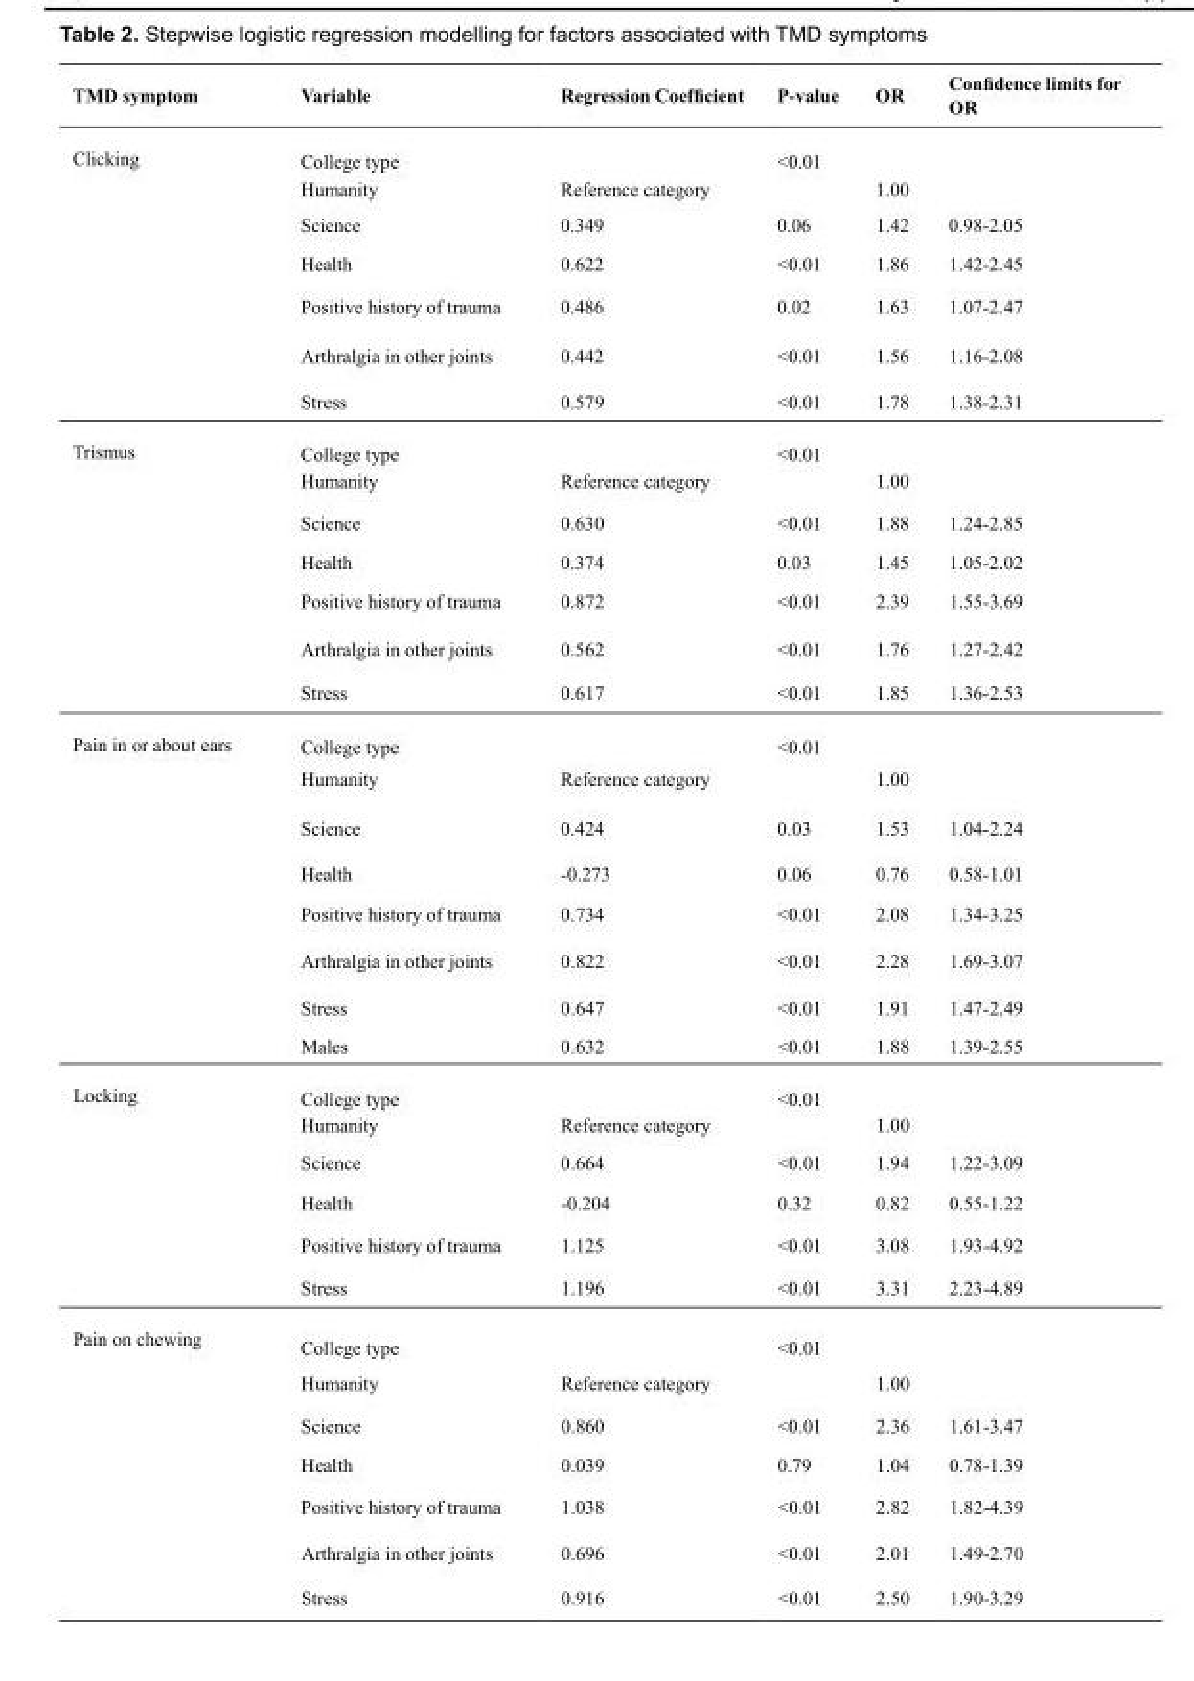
<table><thead><tr><td>TMD symptom</td><td>Variable</td><td>Regression Coefficient</td><td>P-value</td><td>OR</td><td>Confidence limits for OR</td></tr></thead><tbody><tr><td rowspan="7">Clicking</td><td>College type</td><td></td><td>&lt;0.01</td><td></td><td></td></tr><tr><td>Humanity</td><td colspan="2">Reference category</td><td>1.00</td><td></td></tr><tr><td>Science</td><td>0.349</td><td>0.06</td><td>1.42</td><td>0.98-2.05</td></tr><tr><td>Health</td><td>0.622</td><td>&lt;0.01</td><td>1.86</td><td>1.42-2.45</td></tr><tr><td>Positive history of trauma</td><td>0.486</td><td>0.02</td><td>1.63</td><td>1.07-2.47</td></tr><tr><td>Arthralgia in other joints</td><td>0.442</td><td>&lt;0.01</td><td>1.56</td><td>1.16-2.08</td></tr><tr><td>Stress</td><td>0.579</td><td>&lt;0.01</td><td>1.78</td><td>1.38-2.31</td></tr><tr><td rowspan="7">Trismus</td><td>College type</td><td></td><td>&lt;0.01</td><td></td><td></td></tr><tr><td>Humanity</td><td colspan="2">Reference category</td><td>1.00</td><td></td></tr><tr><td>Science</td><td>0.630</td><td>&lt;0.01</td><td>1.88</td><td>1.24-2.85</td></tr><tr><td>Health</td><td>0.374</td><td>0.03</td><td>1.45</td><td>1.05-2.02</td></tr><tr><td>Positive history of trauma</td><td>0.872</td><td>&lt;0.01</td><td>2.39</td><td>1.55-3.69</td></tr><tr><td>Arthralgia in other joints</td><td>0.562</td><td>&lt;0.01</td><td>1.76</td><td>1.27-2.42</td></tr><tr><td>Stress</td><td>0.617</td><td>&lt;0.01</td><td>1.85</td><td>1.36-2.53</td></tr><tr><td rowspan="8">Pain in or about ears</td><td>College type</td><td></td><td>&lt;0.01</td><td></td><td></td></tr><tr><td>Humanity</td><td colspan="2">Reference category</td><td>1.00</td><td></td></tr><tr><td>Science</td><td>0.424</td><td>0.03</td><td>1.53</td><td>1.04-2.24</td></tr><tr><td>Health</td><td>-0.273</td><td>0.06</td><td>0.76</td><td>0.58-1.01</td></tr><tr><td>Positive history of trauma</td><td>0.734</td><td>&lt;0.01</td><td>2.08</td><td>1.34-3.25</td></tr><tr><td>Arthralgia in other joints</td><td>0.822</td><td>&lt;0.01</td><td>2.28</td><td>1.69-3.07</td></tr><tr><td>Stress</td><td>0.647</td><td>&lt;0.01</td><td>1.91</td><td>1.47-2.49</td></tr><tr><td>Males</td><td>0.632</td><td>&lt;0.01</td><td>1.88</td><td>1.39-2.55</td></tr><tr><td rowspan="6">Locking</td><td>College type</td><td></td><td>&lt;0.01</td><td></td><td></td></tr><tr><td>Humanity</td><td colspan="2">Reference category</td><td>1.00</td><td></td></tr><tr><td>Science</td><td>0.664</td><td>&lt;0.01</td><td>1.94</td><td>1.22-3.09</td></tr><tr><td>Health</td><td>-0.204</td><td>0.32</td><td>0.82</td><td>0.55-1.22</td></tr><tr><td>Positive history of trauma</td><td>1.125</td><td>&lt;0.01</td><td>3.08</td><td>1.93-4.92</td></tr><tr><td>Stress</td><td>1.196</td><td>&lt;0.01</td><td>3.31</td><td>2.23-4.89</td></tr><tr><td rowspan="7">Pain on chewing</td><td>College type</td><td></td><td>&lt;0.01</td><td></td><td></td></tr><tr><td>Humanity</td><td colspan="2">Reference category</td><td>1.00</td><td></td></tr><tr><td>Science</td><td>0.860</td><td>&lt;0.01</td><td>2.36</td><td>1.61-3.47</td></tr><tr><td>Health</td><td>0.039</td><td>0.79</td><td>1.04</td><td>0.78-1.39</td></tr><tr><td>Positive history of trauma</td><td>1.038</td><td>&lt;0.01</td><td>2.82</td><td>1.82-4.39</td></tr><tr><td>Arthralgia in other joints</td><td>0.696</td><td>&lt;0.01</td><td>2.01</td><td>1.49-2.70</td></tr><tr><td>Stress</td><td>0.916</td><td>&lt;0.01</td><td>2.50</td><td>1.90-3.29</td></tr></tbody></table>